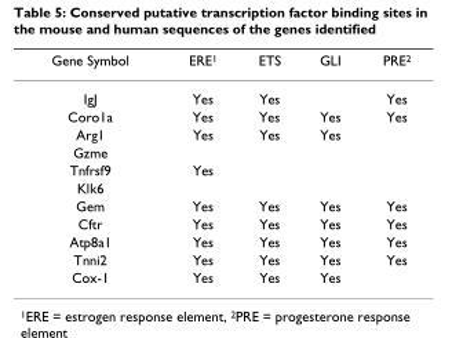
<table><thead><tr><td>Gene Symbol</td><td>ERE<sup>1</sup></td><td>ETS</td><td>GLI</td><td>PRE<sup>2</sup></td></tr></thead><tbody><tr><td>IgJ</td><td>Yes</td><td>Yes</td><td></td><td>Yes</td></tr><tr><td>Coro1a</td><td>Yes</td><td>Yes</td><td>Yes</td><td>Yes</td></tr><tr><td>Arg1</td><td>Yes</td><td>Yes</td><td>Yes</td><td></td></tr><tr><td colspan="5">Gzme</td></tr><tr><td>Tnfrsf9</td><td>Yes</td><td></td><td></td><td></td></tr><tr><td colspan="5">Klk6</td></tr><tr><td>Gem</td><td>Yes</td><td>Yes</td><td>Yes</td><td>Yes</td></tr><tr><td>Cftr</td><td>Yes</td><td>Yes</td><td>Yes</td><td>Yes</td></tr><tr><td>Atp8a1</td><td>Yes</td><td>Yes</td><td>Yes</td><td>Yes</td></tr><tr><td>Tnni2</td><td>Yes</td><td>Yes</td><td>Yes</td><td>Yes</td></tr><tr><td>Cox-1</td><td>Yes</td><td>Yes</td><td>Yes</td><td></td></tr></tbody></table>